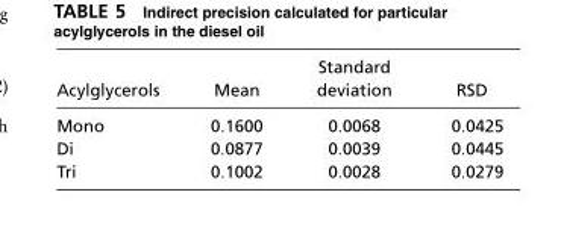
<table><thead><tr><td>Acylglycerols</td><td>Mean</td><td>Standard deviation</td><td>RSD</td></tr></thead><tbody><tr><td>Mono</td><td>0.1600</td><td>0.0068</td><td>0.0425</td></tr><tr><td>Di</td><td>0.0877</td><td>0.0039</td><td>0.0445</td></tr><tr><td>Tri</td><td>0.1002</td><td>0.0028</td><td>0.0279</td></tr></tbody></table>